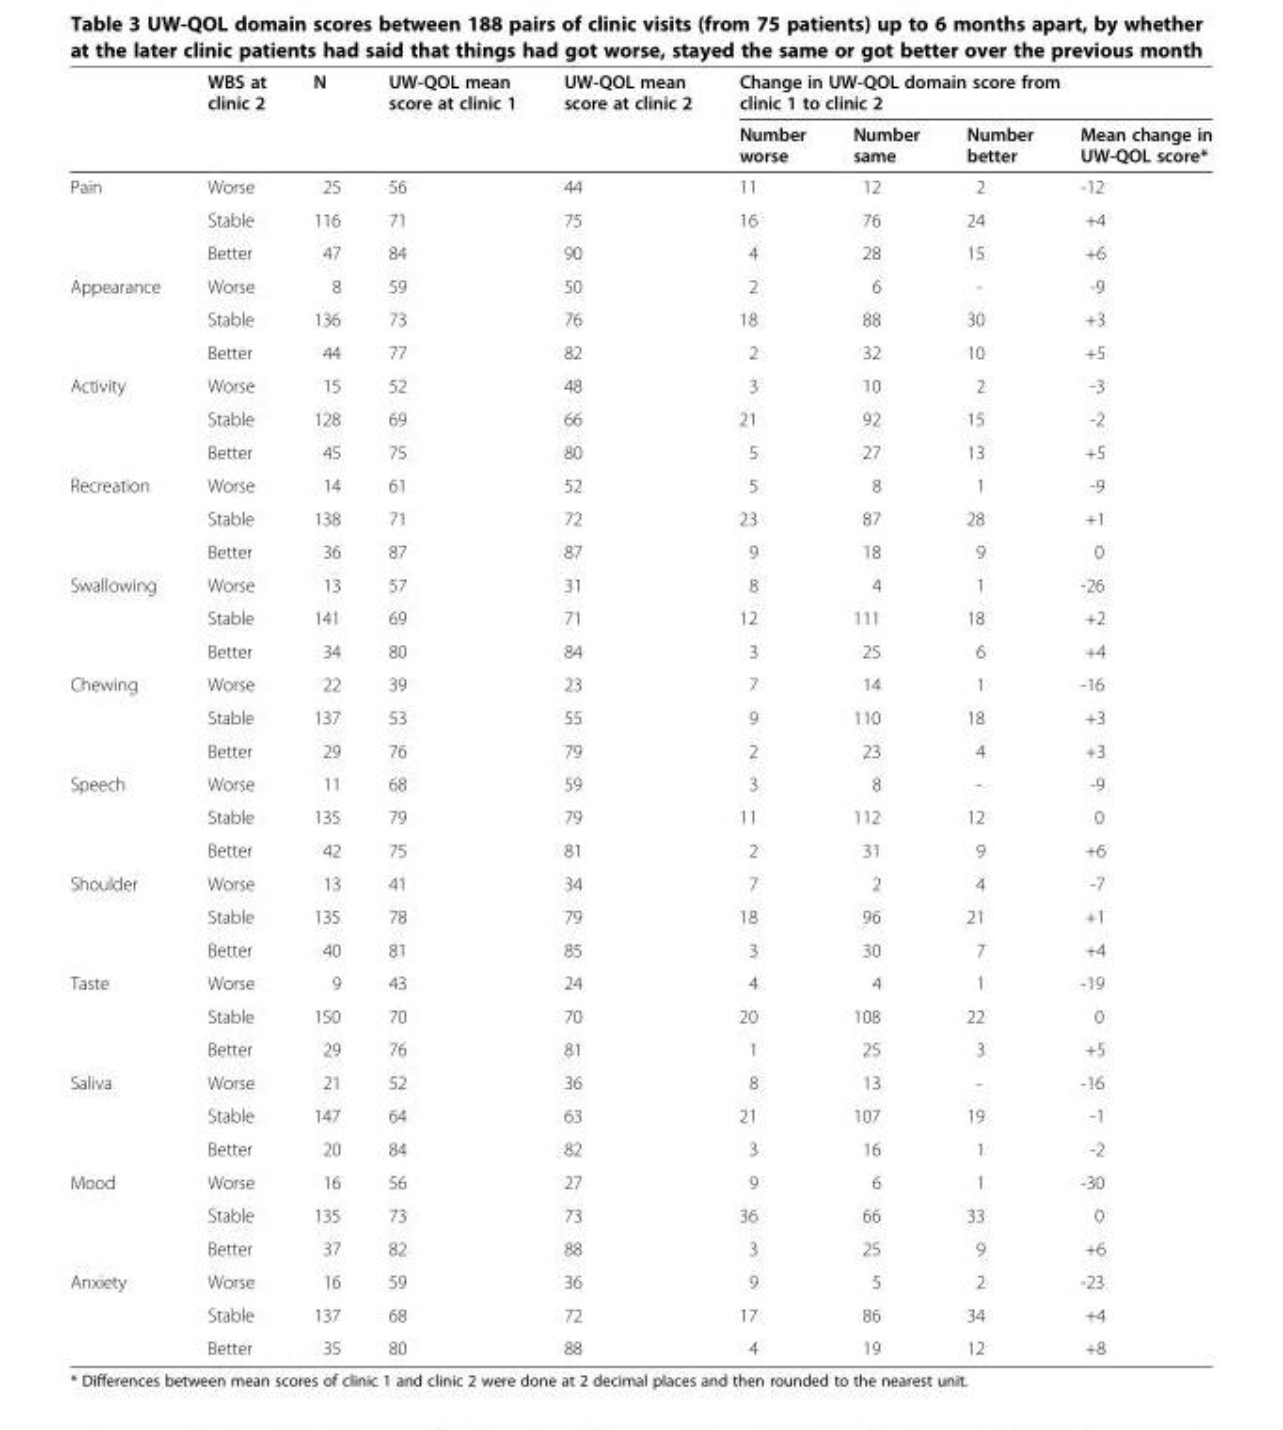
<table><thead><tr><td rowspan="2"></td><td rowspan="2">WBS at clinic 2</td><td rowspan="2">N</td><td rowspan="2">UW-QOL mean score at clinic 1</td><td rowspan="2">UW-QOL mean score at clinic 2</td><td colspan="4">Change in UW-QOL domain score from clinic 1 to clinic 2</td></tr><tr><td>Number worse</td><td>Number same</td><td>Number better</td><td>Mean change in UW-QOL score*</td></tr></thead><tbody><tr><td rowspan="3">Pain</td><td>Worse</td><td>25</td><td>56</td><td>44</td><td>11</td><td>12</td><td>2</td><td>-12</td></tr><tr><td>Stable</td><td>116</td><td>71</td><td>75</td><td>16</td><td>76</td><td>24</td><td>+4</td></tr><tr><td>Better</td><td>47</td><td>84</td><td>90</td><td>4</td><td>28</td><td>15</td><td>+6</td></tr><tr><td rowspan="3">Appearance</td><td>Worse</td><td>8</td><td>59</td><td>50</td><td>2</td><td>6</td><td>-</td><td>-9</td></tr><tr><td>Stable</td><td>136</td><td>73</td><td>76</td><td>18</td><td>88</td><td>30</td><td>+3</td></tr><tr><td>Better</td><td>44</td><td>77</td><td>82</td><td>2</td><td>32</td><td>10</td><td>+5</td></tr><tr><td rowspan="3">Activity</td><td>Worse</td><td>15</td><td>52</td><td>48</td><td>3</td><td>10</td><td>2</td><td>-3</td></tr><tr><td>Stable</td><td>128</td><td>69</td><td>66</td><td>21</td><td>92</td><td>15</td><td>-2</td></tr><tr><td>Better</td><td>45</td><td>75</td><td>80</td><td>5</td><td>27</td><td>13</td><td>+5</td></tr><tr><td rowspan="3">Recreation</td><td>Worse</td><td>14</td><td>61</td><td>52</td><td>5</td><td>8</td><td>1</td><td>-9</td></tr><tr><td>Stable</td><td>138</td><td>71</td><td>72</td><td>23</td><td>87</td><td>28</td><td>+1</td></tr><tr><td>Better</td><td>36</td><td>87</td><td>87</td><td>9</td><td>18</td><td>9</td><td>0</td></tr><tr><td rowspan="3">Swallowing</td><td>Worse</td><td>13</td><td>57</td><td>31</td><td>8</td><td>4</td><td>1</td><td>-26</td></tr><tr><td>Stable</td><td>141</td><td>69</td><td>71</td><td>12</td><td>111</td><td>18</td><td>+2</td></tr><tr><td>Better</td><td>34</td><td>80</td><td>84</td><td>3</td><td>25</td><td>6</td><td>+4</td></tr><tr><td rowspan="3">Chewing</td><td>Worse</td><td>22</td><td>39</td><td>23</td><td>7</td><td>14</td><td>1</td><td>-16</td></tr><tr><td>Stable</td><td>137</td><td>53</td><td>55</td><td>9</td><td>110</td><td>18</td><td>+3</td></tr><tr><td>Better</td><td>29</td><td>76</td><td>79</td><td>2</td><td>23</td><td>4</td><td>+3</td></tr><tr><td rowspan="3">Speech</td><td>Worse</td><td>11</td><td>68</td><td>59</td><td>3</td><td>8</td><td>-</td><td>-9</td></tr><tr><td>Stable</td><td>135</td><td>79</td><td>79</td><td>11</td><td>112</td><td>12</td><td>0</td></tr><tr><td>Better</td><td>42</td><td>75</td><td>81</td><td>2</td><td>31</td><td>9</td><td>+6</td></tr><tr><td rowspan="3">Shoulder</td><td>Worse</td><td>13</td><td>41</td><td>34</td><td>7</td><td>2</td><td>4</td><td>-7</td></tr><tr><td>Stable</td><td>135</td><td>78</td><td>79</td><td>18</td><td>96</td><td>21</td><td>+1</td></tr><tr><td>Better</td><td>40</td><td>81</td><td>85</td><td>3</td><td>30</td><td>7</td><td>+4</td></tr><tr><td rowspan="3">Taste</td><td>Worse</td><td>9</td><td>43</td><td>24</td><td>4</td><td>4</td><td>1</td><td>-19</td></tr><tr><td>Stable</td><td>150</td><td>70</td><td>70</td><td>20</td><td>108</td><td>22</td><td>0</td></tr><tr><td>Better</td><td>29</td><td>76</td><td>81</td><td>1</td><td>25</td><td>3</td><td>+5</td></tr><tr><td rowspan="3">Saliva</td><td>Worse</td><td>21</td><td>52</td><td>36</td><td>8</td><td>13</td><td>-</td><td>-16</td></tr><tr><td>Stable</td><td>147</td><td>64</td><td>63</td><td>21</td><td>107</td><td>19</td><td>-1</td></tr><tr><td>Better</td><td>20</td><td>84</td><td>82</td><td>3</td><td>16</td><td>1</td><td>-2</td></tr><tr><td rowspan="3">Mood</td><td>Worse</td><td>16</td><td>56</td><td>27</td><td>9</td><td>6</td><td>1</td><td>-30</td></tr><tr><td>Stable</td><td>135</td><td>73</td><td>73</td><td>36</td><td>66</td><td>33</td><td>0</td></tr><tr><td>Better</td><td>37</td><td>82</td><td>88</td><td>3</td><td>25</td><td>9</td><td>+6</td></tr><tr><td rowspan="3">Anxiety</td><td>Worse</td><td>16</td><td>59</td><td>36</td><td>9</td><td>5</td><td>2</td><td>-23</td></tr><tr><td>Stable</td><td>137</td><td>68</td><td>72</td><td>17</td><td>86</td><td>34</td><td>+4</td></tr><tr><td>Better</td><td>35</td><td>80</td><td>88</td><td>4</td><td>19</td><td>12</td><td>+8</td></tr></tbody></table>